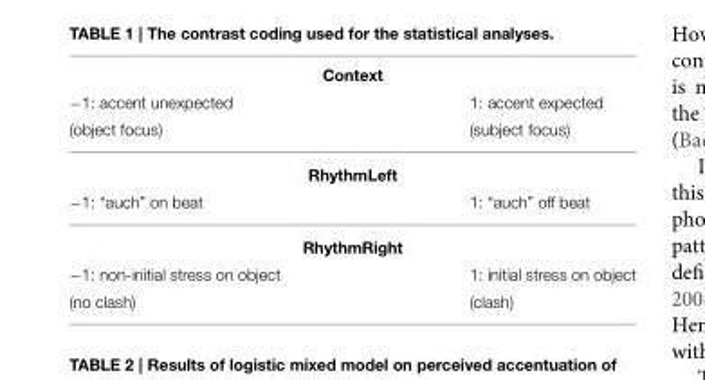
<table><tbody><tr><td colspan="2">Context</td></tr><tr><td>−1: accent unexpected</td><td>1: accent expected</td></tr><tr><td>(object focus)</td><td>(subject focus)</td></tr><tr><td colspan="2">RhythmLeft</td></tr><tr><td>−1: “auch” on beat</td><td>1: “auch” off beat</td></tr><tr><td colspan="2">RhythmRight</td></tr><tr><td>−1: non-initial stress on object</td><td>1: initial stress on object</td></tr><tr><td>(no clash)</td><td>(clash)</td></tr></tbody></table>